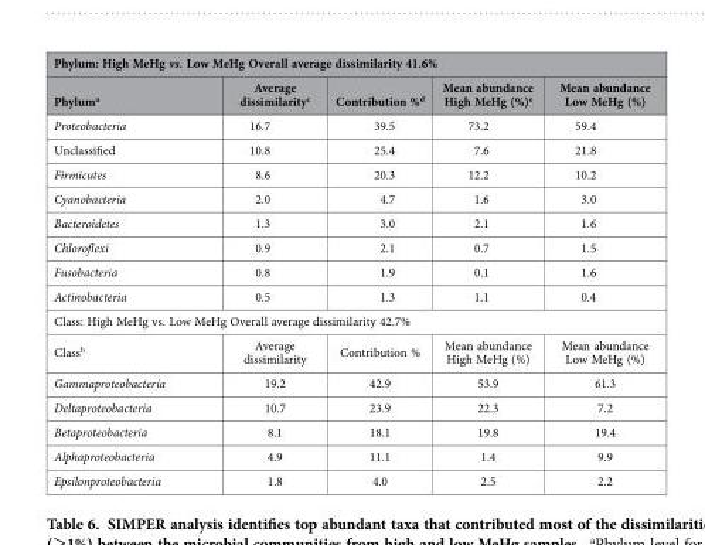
<table><thead><tr><td colspan="5">Phylum: High MeHg vs. Low MeHg Overall average dissimilarity 41.6%</td></tr><tr><td>Phylum<sup>a</sup></td><td>Average dissimilarity<sup>c</sup></td><td>Contribution %<sup>d</sup></td><td>Mean abundance High MeHg (%)<sup>e</sup></td><td>Mean abundance Low MeHg (%)</td></tr></thead><tbody><tr><td>Proteobacteria</td><td>16.7</td><td>39.5</td><td>73.2</td><td>59.4</td></tr><tr><td>Unclassified</td><td>10.8</td><td>25.4</td><td>7.6</td><td>21.8</td></tr><tr><td>Firmicutes</td><td>8.6</td><td>20.3</td><td>12.2</td><td>10.2</td></tr><tr><td>Cyanobacteria</td><td>2.0</td><td>4.7</td><td>1.6</td><td>3.0</td></tr><tr><td>Bacteroidetes</td><td>1.3</td><td>3.0</td><td>2.1</td><td>1.6</td></tr><tr><td>Chloroflexi</td><td>0.9</td><td>2.1</td><td>0.7</td><td>1.5</td></tr><tr><td>Fusobacteria</td><td>0.8</td><td>1.9</td><td>0.1</td><td>1.6</td></tr><tr><td>Actinobacteria</td><td>0.5</td><td>1.3</td><td>1.1</td><td>0.4</td></tr><tr><td colspan="5">Class: High MeHg vs. Low MeHg Overall average dissimilarity 42.7%</td></tr><tr><td>Class<sup>b</sup></td><td>Average dissimilarity</td><td>Contribution %</td><td>Mean abundance High MeHg (%)</td><td>Mean abundance Low MeHg (%)</td></tr><tr><td>Gammaproteobacteria</td><td>19.2</td><td>42.9</td><td>53.9</td><td>61.3</td></tr><tr><td>Deltaproteobacteria</td><td>10.7</td><td>23.9</td><td>22.3</td><td>7.2</td></tr><tr><td>Betaproteobacteria</td><td>8.1</td><td>18.1</td><td>19.8</td><td>19.4</td></tr><tr><td>Alphaproteobacteria</td><td>4.9</td><td>11.1</td><td>1.4</td><td>9.9</td></tr><tr><td>Epsilonproteobacteria</td><td>1.8</td><td>4.0</td><td>2.5</td><td>2.2</td></tr></tbody></table>